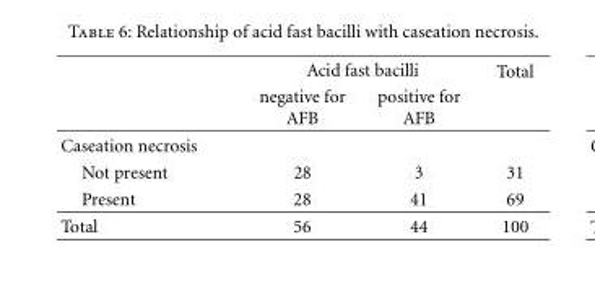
<table><thead><tr><td rowspan="2"></td><td colspan="2">Acid fast bacilli</td><td rowspan="2">Total</td></tr><tr><td>negative for AFB</td><td>positive for AFB</td></tr></thead><tbody><tr><td colspan="4">Caseation necrosis</td></tr><tr><td>Not present</td><td>28</td><td>3</td><td>31</td></tr><tr><td>Present</td><td>28</td><td>41</td><td>69</td></tr><tr><td>Total</td><td>56</td><td>44</td><td>100</td></tr></tbody></table>